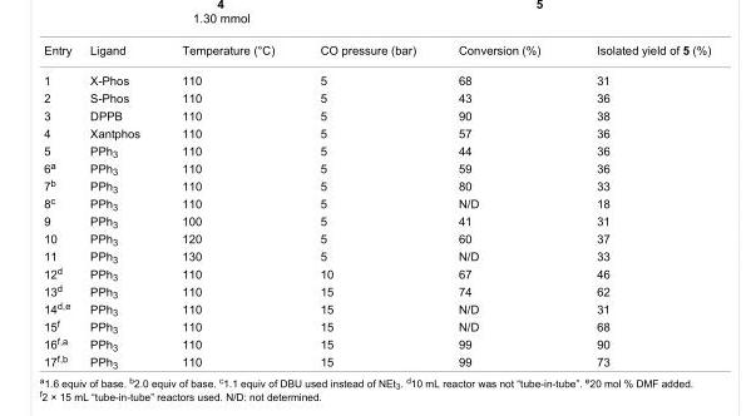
<table><tbody><tr><td>Entry</td><td>Ligand</td><td>Temperature (°C)</td><td>CO pressure (bar)</td><td>Conversion (%)</td><td>Isolated yield of 5 (%)</td></tr><tr><td>1</td><td>X-Phos</td><td>110</td><td>5</td><td>68</td><td>31</td></tr><tr><td>2</td><td>S-Phos</td><td>110</td><td>5</td><td>43</td><td>36</td></tr><tr><td>3</td><td>DPPB</td><td>110</td><td>5</td><td>90</td><td>38</td></tr><tr><td>4</td><td>Xantphos</td><td>110</td><td>5</td><td>57</td><td>36</td></tr><tr><td>5</td><td>PPh<sub>3</sub></td><td>110</td><td>5</td><td>44</td><td>36</td></tr><tr><td>6<sup>a</sup></td><td>PPh<sub>3</sub></td><td>110</td><td>5</td><td>59</td><td>36</td></tr><tr><td>7<sup>b</sup></td><td>PPh<sub>3</sub></td><td>110</td><td>5</td><td>80</td><td>33</td></tr><tr><td>8<sup>c</sup></td><td>PPh<sub>3</sub></td><td>110</td><td>5</td><td>N/D</td><td>18</td></tr><tr><td>9</td><td>PPh<sub>3</sub></td><td>100</td><td>5</td><td>41</td><td>31</td></tr><tr><td>10</td><td>PPh<sub>3</sub></td><td>120</td><td>5</td><td>60</td><td>37</td></tr><tr><td>11</td><td>PPh<sub>3</sub></td><td>130</td><td>5</td><td>N/D</td><td>33</td></tr><tr><td>12<sup>d</sup></td><td>PPh<sub>3</sub></td><td>110</td><td>10</td><td>67</td><td>46</td></tr><tr><td>13<sup>d</sup></td><td>PPh<sub>3</sub></td><td>110</td><td>15</td><td>74</td><td>62</td></tr><tr><td>14<sup>d,e</sup></td><td>PPh<sub>3</sub></td><td>110</td><td>15</td><td>N/D</td><td>31</td></tr><tr><td>15<sup>f</sup></td><td>PPh<sub>3</sub></td><td>110</td><td>15</td><td>N/D</td><td>68</td></tr><tr><td>16<sup>f,a</sup></td><td>PPh<sub>3</sub></td><td>110</td><td>15</td><td>99</td><td>90</td></tr><tr><td>17<sup>f,b</sup></td><td>PPh<sub>3</sub></td><td>110</td><td>15</td><td>99</td><td>73</td></tr></tbody></table>